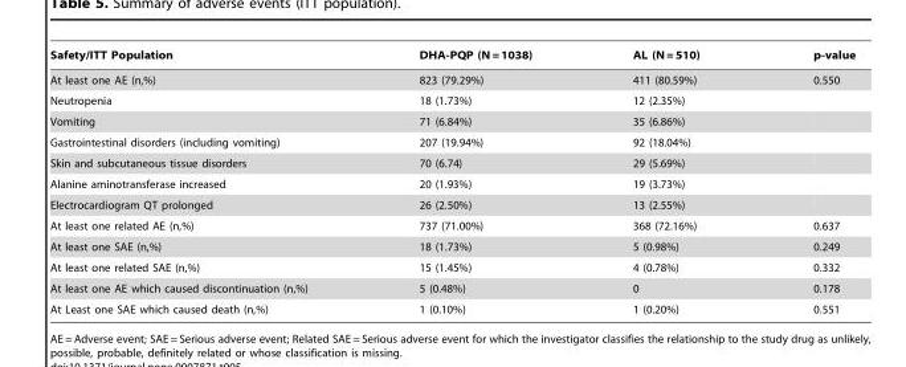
<table><thead><tr><td>Safety/ITT Population</td><td>DHA-PQP (N = 1038)</td><td>AL (N = 510)</td><td>p-value</td></tr></thead><tbody><tr><td>At least one AE (n,%)</td><td>823 (79.29%)</td><td>411 (80.59%)</td><td>0.550</td></tr><tr><td>Neutropenia</td><td>18 (1.73%)</td><td>12 (2.35%)</td><td></td></tr><tr><td>Vomiting</td><td>71 (6.84%)</td><td>35 (6.86%)</td><td></td></tr><tr><td>Gastrointestinal disorders (including vomiting)</td><td>207 (19.94%)</td><td>92 (18.04%)</td><td></td></tr><tr><td>Skin and subcutaneous tissue disorders</td><td>70 (6.74)</td><td>29 (5.69%)</td><td></td></tr><tr><td>Alanine aminotransferase increased</td><td>20 (1.93%)</td><td>19 (3.73%)</td><td></td></tr><tr><td>Electrocardiogram QT prolonged</td><td>26 (2.50%)</td><td>13 (2.55%)</td><td></td></tr><tr><td>At least one related AE (n,%)</td><td>737 (71.00%)</td><td>368 (72.16%)</td><td>0.637</td></tr><tr><td>At least one SAE (n,%)</td><td>18 (1.73%)</td><td>5 (0.98%)</td><td>0.249</td></tr><tr><td>At least one related SAE (n,%)</td><td>15 (1.45%)</td><td>4 (0.78%)</td><td>0.332</td></tr><tr><td>At least one AE which caused discontinuation (n,%)</td><td>5 (0.48%)</td><td>0</td><td>0.178</td></tr><tr><td>At Least one SAE which caused death (n,%)</td><td>1 (0.10%)</td><td>1 (0.20%)</td><td>0.551</td></tr></tbody></table>